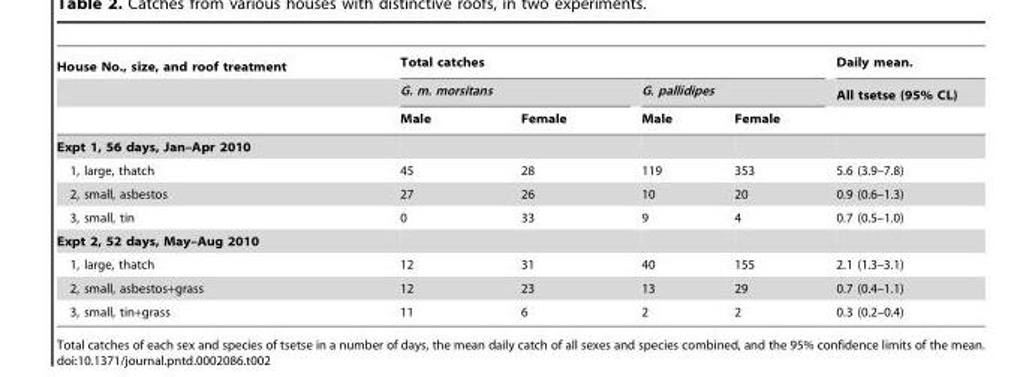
<table><thead><tr><td rowspan="3">House No., size, and roof treatment</td><td colspan="4">Total catches</td><td rowspan="3">Daily mean. All tsetse (95% CL)</td></tr><tr><td colspan="2">G. m. morsitans</td><td colspan="2">G. pallidipes</td></tr><tr><td>Male</td><td>Female</td><td>Male</td><td>Female</td></tr></thead><tbody><tr><td colspan="6">Expt 1, 56 days, Jan–Apr 2010</td></tr><tr><td>1, large, thatch</td><td>45</td><td>28</td><td>119</td><td>353</td><td>5.6 (3.9–7.8)</td></tr><tr><td>2, small, asbestos</td><td>27</td><td>26</td><td>10</td><td>20</td><td>0.9 (0.6–1.3)</td></tr><tr><td>3, small, tin</td><td>0</td><td>33</td><td>9</td><td>4</td><td>0.7 (0.5–1.0)</td></tr><tr><td colspan="6">Expt 2, 52 days, May–Aug 2010</td></tr><tr><td>1, large, thatch</td><td>12</td><td>31</td><td>40</td><td>155</td><td>2.1 (1.3–3.1)</td></tr><tr><td>2, small, asbestos+grass</td><td>12</td><td>23</td><td>13</td><td>29</td><td>0.7 (0.4–1.1)</td></tr><tr><td>3, small, tin+grass</td><td>11</td><td>6</td><td>2</td><td>2</td><td>0.3 (0.2–0.4)</td></tr></tbody></table>